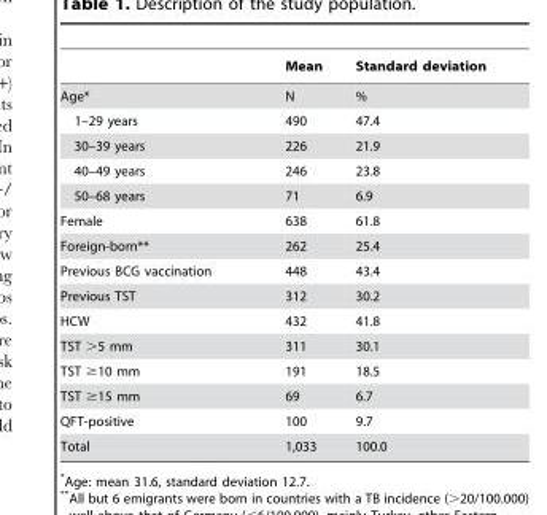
<table><thead><tr><td></td><td>Mean</td><td>Standard deviation</td></tr></thead><tbody><tr><td>Age*</td><td>N</td><td>%</td></tr><tr><td>1–29 years</td><td>490</td><td>47.4</td></tr><tr><td>30–39 years</td><td>226</td><td>21.9</td></tr><tr><td>40–49 years</td><td>246</td><td>23.8</td></tr><tr><td>50–68 years</td><td>71</td><td>6.9</td></tr><tr><td>Female</td><td>638</td><td>61.8</td></tr><tr><td>Foreign-born**</td><td>262</td><td>25.4</td></tr><tr><td>Previous BCG vaccination</td><td>448</td><td>43.4</td></tr><tr><td>Previous TST</td><td>312</td><td>30.2</td></tr><tr><td>HCW</td><td>432</td><td>41.8</td></tr><tr><td>TST &gt;5 mm</td><td>311</td><td>30.1</td></tr><tr><td>TST ≥10 mm</td><td>191</td><td>18.5</td></tr><tr><td>TST ≥15 mm</td><td>69</td><td>6.7</td></tr><tr><td>QFT-positive</td><td>100</td><td>9.7</td></tr><tr><td>Total</td><td>1,033</td><td>100.0</td></tr></tbody></table>